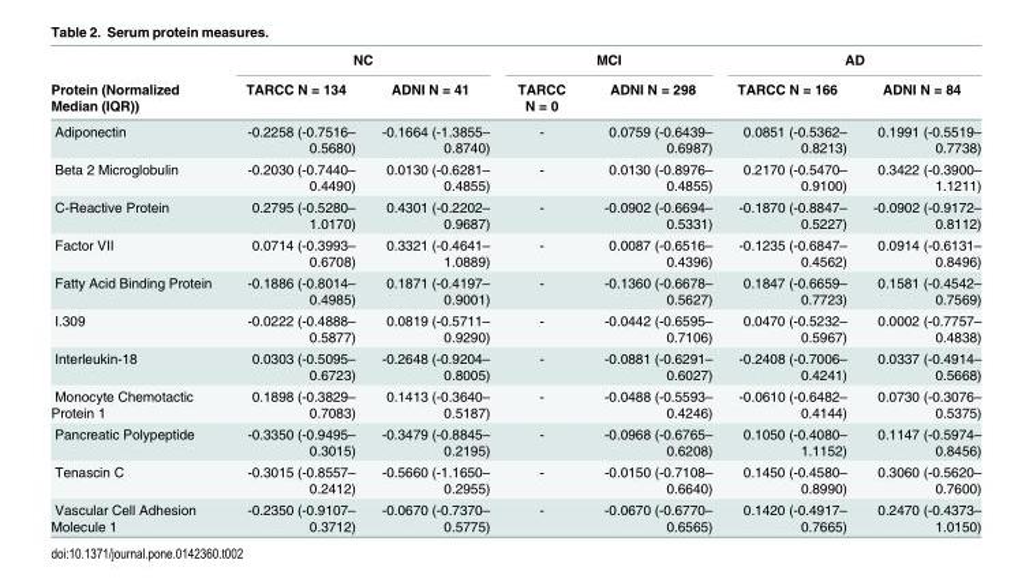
<table><thead><tr><td rowspan="2">Protein (Normalized Median (IQR))</td><td colspan="2">NC</td><td colspan="2">MCI</td><td colspan="2">AD</td></tr><tr><td>TARCC N = 134</td><td>ADNI N = 41</td><td>TARCC N = 0</td><td>ADNI N = 298</td><td>TARCC N = 166</td><td>ADNI N = 84</td></tr></thead><tbody><tr><td>Adiponectin</td><td>-0.2258 (-0.7516– 0.5680)</td><td>-0.1664 (-1.3855– 0.8740)</td><td>-</td><td>0.0759 (-0.6439– 0.6987)</td><td>0.0851 (-0.5362– 0.8213)</td><td>0.1991 (-0.5519– 0.7738)</td></tr><tr><td>Beta 2 Microglobulin</td><td>-0.2030 (-0.7440– 0.4490)</td><td>0.0130 (-0.6281– 0.4855)</td><td>-</td><td>0.0130 (-0.8976– 0.4855)</td><td>0.2170 (-0.5470– 0.9100)</td><td>0.3422 (-0.3900– 1.1211)</td></tr><tr><td>C-Reactive Protein</td><td>0.2795 (-0.5280– 1.0170)</td><td>0.4301 (-0.2202– 0.9687)</td><td>-</td><td>-0.0902 (-0.6694– 0.5331)</td><td>-0.1870 (-0.8847– 0.5227)</td><td>-0.0902 (-0.9172– 0.8112)</td></tr><tr><td>Factor VII</td><td>0.0714 (-0.3993– 0.6708)</td><td>0.3321 (-0.4641– 1.0889)</td><td>-</td><td>0.0087 (-0.6516– 0.4396)</td><td>-0.1235 (-0.6847– 0.4562)</td><td>0.0914 (-0.6131– 0.8496)</td></tr><tr><td>Fatty Acid Binding Protein</td><td>-0.1886 (-0.8014– 0.4985)</td><td>0.1871 (-0.4197– 0.9001)</td><td>-</td><td>-0.1360 (-0.6678– 0.5627)</td><td>0.1847 (-0.6659– 0.7723)</td><td>0.1581 (-0.4542– 0.7569)</td></tr><tr><td>I.309</td><td>-0.0222 (-0.4888– 0.5877)</td><td>0.0819 (-0.5711– 0.9290)</td><td>-</td><td>-0.0442 (-0.6595– 0.7106)</td><td>0.0470 (-0.5232– 0.5967)</td><td>0.0002 (-0.7757– 0.4838)</td></tr><tr><td>Interleukin-18</td><td>0.0303 (-0.5095– 0.6723)</td><td>-0.2648 (-0.9204– 0.8005)</td><td>-</td><td>-0.0881 (-0.6291– 0.6027)</td><td>-0.2408 (-0.7006– 0.4241)</td><td>0.0337 (-0.4914– 0.5668)</td></tr><tr><td>Monocyte Chemotactic Protein 1</td><td>0.1898 (-0.3829– 0.7083)</td><td>0.1413 (-0.3640– 0.5187)</td><td>-</td><td>-0.0488 (-0.5593– 0.4246)</td><td>-0.0610 (-0.6482– 0.4144)</td><td>0.0730 (-0.3076– 0.5375)</td></tr><tr><td>Pancreatic Polypeptide</td><td>-0.3350 (-0.9495– 0.3015)</td><td>-0.3479 (-0.8845– 0.2195)</td><td>-</td><td>-0.0968 (-0.6765– 0.6208)</td><td>0.1050 (-0.4080– 1.1152)</td><td>0.1147 (-0.5974– 0.8456)</td></tr><tr><td>Tenascin C</td><td>-0.3015 (-0.8557– 0.2412)</td><td>-0.5660 (-1.1650– 0.2955)</td><td>-</td><td>-0.0150 (-0.7108– 0.6640)</td><td>0.1450 (-0.4580– 0.8990)</td><td>0.3060 (-0.5620– 0.7600)</td></tr><tr><td>Vascular Cell Adhesion Molecule 1</td><td>-0.2350 (-0.9107– 0.3712)</td><td>-0.0670 (-0.7370– 0.5775)</td><td>-</td><td>-0.0670 (-0.6770– 0.6565)</td><td>0.1420 (-0.4917– 0.7665)</td><td>0.2470 (-0.4373– 1.0150)</td></tr></tbody></table>